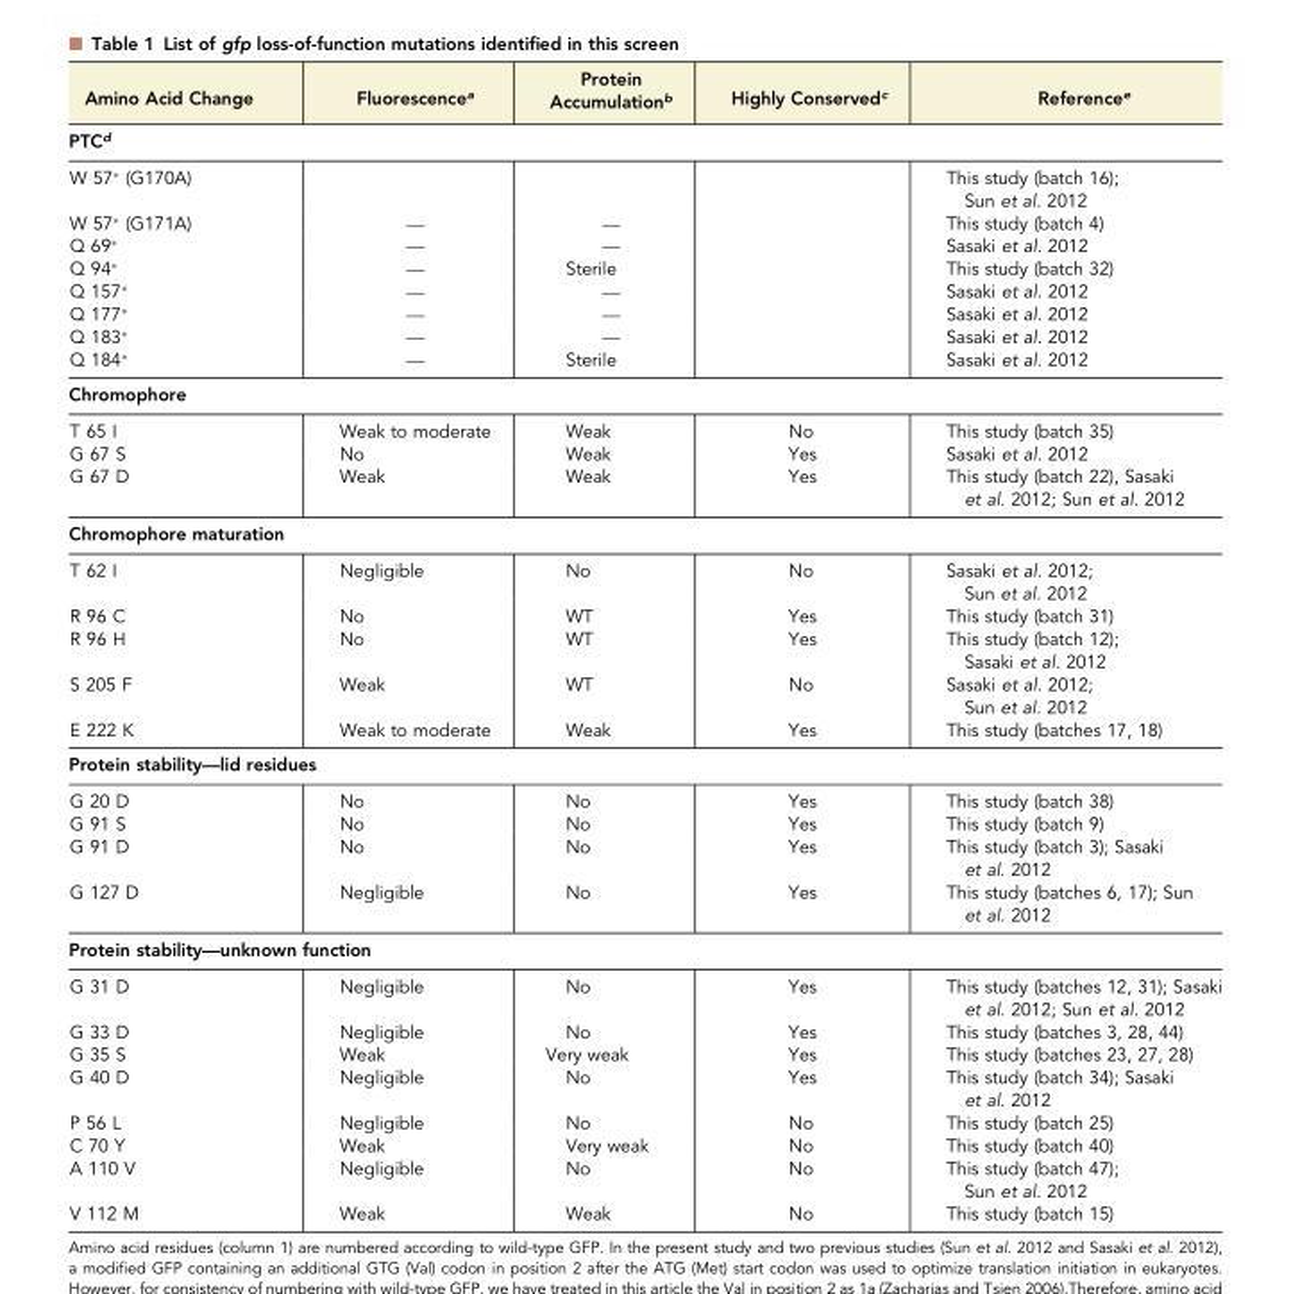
<table><thead><tr><td>Amino Acid Change</td><td>Fluorescence<sup>a</sup></td><td>Protein Accumulation<sup>b</sup></td><td>Highly Conserved<sup>c</sup></td><td>Reference<sup>e</sup></td></tr></thead><tbody><tr><td colspan="5">PTC<sup>d</sup></td></tr><tr><td>W 57* (G170A)</td><td></td><td></td><td></td><td>This study (batch 16); Sun et al. 2012</td></tr><tr><td>W 57* (G171A)</td><td>—</td><td>—</td><td></td><td>This study (batch 4)</td></tr><tr><td>Q 69*</td><td>—</td><td>—</td><td></td><td>Sasaki et al. 2012</td></tr><tr><td>Q 94*</td><td>—</td><td>Sterile</td><td></td><td>This study (batch 32)</td></tr><tr><td>Q 157*</td><td>—</td><td>—</td><td></td><td>Sasaki et al. 2012</td></tr><tr><td>Q 177*</td><td>—</td><td>—</td><td></td><td>Sasaki et al. 2012</td></tr><tr><td>Q 183*</td><td>—</td><td>—</td><td></td><td>Sasaki et al. 2012</td></tr><tr><td>Q 184*</td><td>—</td><td>Sterile</td><td></td><td>Sasaki et al. 2012</td></tr><tr><td colspan="5">Chromophore</td></tr><tr><td>T 65 I</td><td>Weak to moderate</td><td>Weak</td><td>No</td><td>This study (batch 35)</td></tr><tr><td>G 67 S</td><td>No</td><td>Weak</td><td>Yes</td><td>Sasaki et al. 2012</td></tr><tr><td>G 67 D</td><td>Weak</td><td>Weak</td><td>Yes</td><td>This study (batch 22), Sasaki et al. 2012; Sun et al. 2012</td></tr><tr><td colspan="5">Chromophore maturation</td></tr><tr><td>T 62 I</td><td>Negligible</td><td>No</td><td>No</td><td>Sasaki et al. 2012; Sun et al. 2012</td></tr><tr><td>R 96 C</td><td>No</td><td>WT</td><td>Yes</td><td>This study (batch 31)</td></tr><tr><td>R 96 H</td><td>No</td><td>WT</td><td>Yes</td><td>This study (batch 12); Sasaki et al. 2012</td></tr><tr><td>S 205 F</td><td>Weak</td><td>WT</td><td>No</td><td>Sasaki et al. 2012; Sun et al. 2012</td></tr><tr><td>E 222 K</td><td>Weak to moderate</td><td>Weak</td><td>Yes</td><td>This study (batches 17, 18)</td></tr><tr><td colspan="5">Protein stability—lid residues</td></tr><tr><td>G 20 D</td><td>No</td><td>No</td><td>Yes</td><td>This study (batch 38)</td></tr><tr><td>G 91 S</td><td>No</td><td>No</td><td>Yes</td><td>This study (batch 9)</td></tr><tr><td>G 91 D</td><td>No</td><td>No</td><td>Yes</td><td>This study (batch 3); Sasaki et al. 2012</td></tr><tr><td>G 127 D</td><td>Negligible</td><td>No</td><td>Yes</td><td>This study (batches 6, 17); Sun et al. 2012</td></tr><tr><td colspan="5">Protein stability—unknown function</td></tr><tr><td>G 31 D</td><td>Negligible</td><td>No</td><td>Yes</td><td>This study (batches 12, 31); Sasaki et al. 2012; Sun et al. 2012</td></tr><tr><td>G 33 D</td><td>Negligible</td><td>No</td><td>Yes</td><td>This study (batches 3, 28, 44)</td></tr><tr><td>G 35 S</td><td>Weak</td><td>Very weak</td><td>Yes</td><td>This study (batches 23, 27, 28)</td></tr><tr><td>G 40 D</td><td>Negligible</td><td>No</td><td>Yes</td><td>This study (batch 34); Sasaki et al. 2012</td></tr><tr><td>P 56 L</td><td>Negligible</td><td>No</td><td>No</td><td>This study (batch 25)</td></tr><tr><td>C 70 Y</td><td>Weak</td><td>Very weak</td><td>No</td><td>This study (batch 40)</td></tr><tr><td>A 110 V</td><td>Negligible</td><td>No</td><td>No</td><td>This study (batch 47); Sun et al. 2012</td></tr><tr><td>V 112 M</td><td>Weak</td><td>Weak</td><td>No</td><td>This study (batch 15)</td></tr></tbody></table>